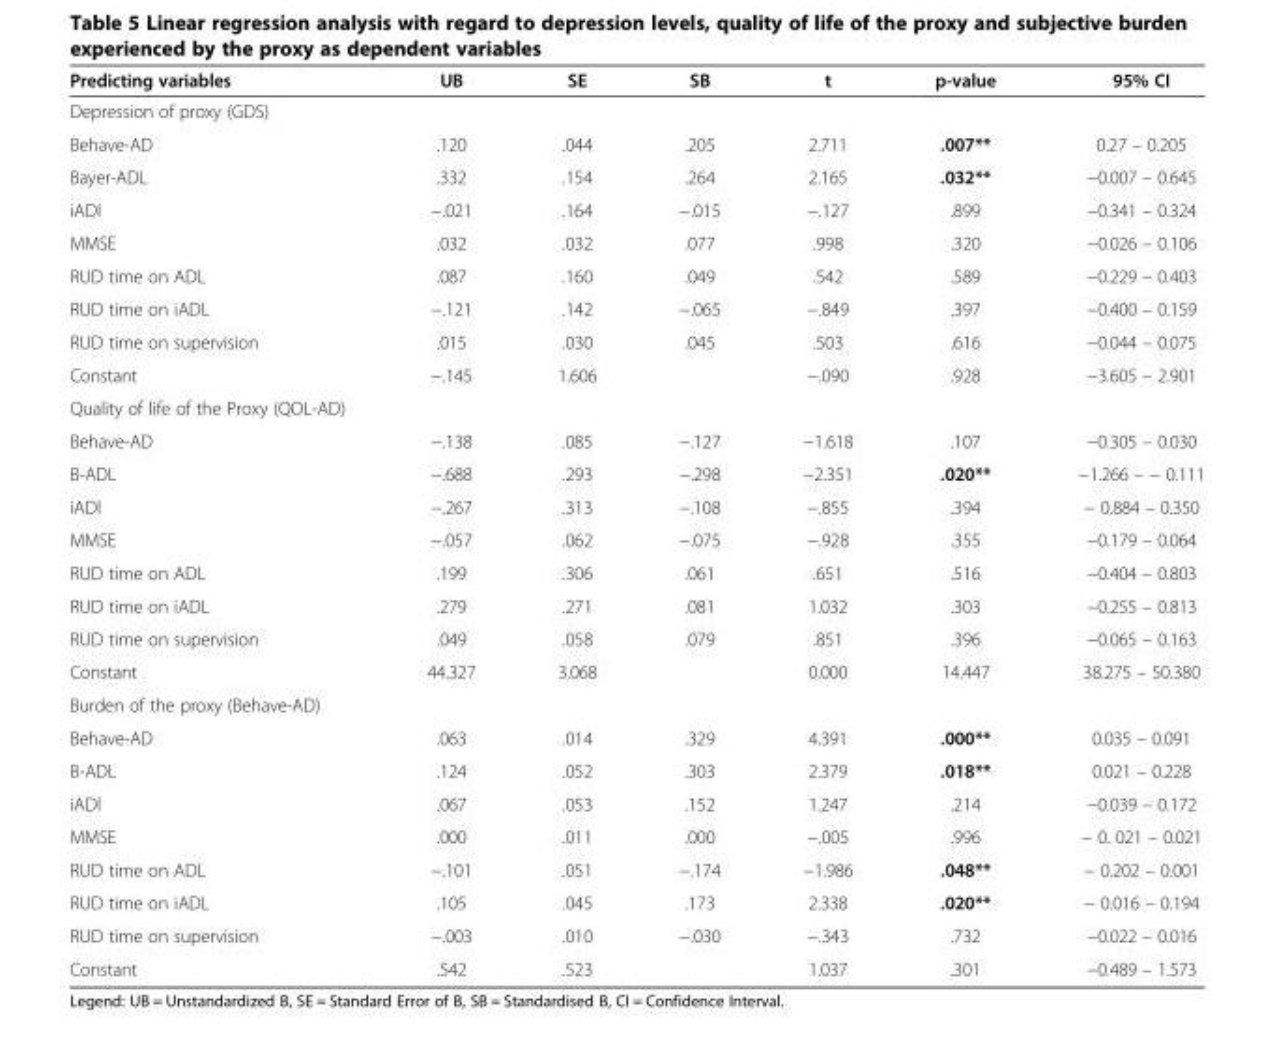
<table><thead><tr><td>Predicting variables</td><td>UB</td><td>SE</td><td>SB</td><td>t</td><td>p-value</td><td>95% CI</td></tr></thead><tbody><tr><td colspan="7">Depression of proxy (GDS)</td></tr><tr><td>Behave-AD</td><td>.120</td><td>.044</td><td>.205</td><td>2.711</td><td>.007**</td><td>0.27 – 0.205</td></tr><tr><td>Bayer-ADL</td><td>.332</td><td>.154</td><td>.264</td><td>2.165</td><td>.032**</td><td>−0.007 – 0.645</td></tr><tr><td>iADl</td><td>−.021</td><td>.164</td><td>−.015</td><td>−.127</td><td>.899</td><td>−0.341 – 0.324</td></tr><tr><td>MMSE</td><td>.032</td><td>.032</td><td>.077</td><td>.998</td><td>.320</td><td>−0.026 – 0.106</td></tr><tr><td>RUD time on ADL</td><td>.087</td><td>.160</td><td>.049</td><td>.542</td><td>.589</td><td>−0.229 – 0.403</td></tr><tr><td>RUD time on iADL</td><td>−.121</td><td>.142</td><td>−.065</td><td>−.849</td><td>.397</td><td>−0.400 – 0.159</td></tr><tr><td>RUD time on supervision</td><td>.015</td><td>.030</td><td>.045</td><td>.503</td><td>.616</td><td>−0.044 – 0.075</td></tr><tr><td>Constant</td><td>−.145</td><td>1.606</td><td></td><td>−.090</td><td>.928</td><td>−3.605 – 2.901</td></tr><tr><td colspan="7">Quality of life of the Proxy (QOL-AD)</td></tr><tr><td>Behave-AD</td><td>−.138</td><td>.085</td><td>−.127</td><td>−1.618</td><td>.107</td><td>−0.305 – 0.030</td></tr><tr><td>B-ADL</td><td>−.688</td><td>.293</td><td>−.298</td><td>−2.351</td><td>.020**</td><td>−1.266 – − 0.111</td></tr><tr><td>iADl</td><td>−.267</td><td>.313</td><td>−.108</td><td>−.855</td><td>.394</td><td>− 0.884 – 0.350</td></tr><tr><td>MMSE</td><td>−.057</td><td>.062</td><td>−.075</td><td>−.928</td><td>.355</td><td>−0.179 – 0.064</td></tr><tr><td>RUD time on ADL</td><td>.199</td><td>.306</td><td>.061</td><td>.651</td><td>.516</td><td>−0.404 – 0.803</td></tr><tr><td>RUD time on iADL</td><td>.279</td><td>.271</td><td>.081</td><td>1.032</td><td>.303</td><td>−0.255 – 0.813</td></tr><tr><td>RUD time on supervision</td><td>.049</td><td>.058</td><td>.079</td><td>.851</td><td>.396</td><td>−0.065 – 0.163</td></tr><tr><td>Constant</td><td>44.327</td><td>3.068</td><td></td><td>0.000</td><td>14.447</td><td>38.275 – 50.380</td></tr><tr><td colspan="7">Burden of the proxy (Behave-AD)</td></tr><tr><td>Behave-AD</td><td>.063</td><td>.014</td><td>.329</td><td>4.391</td><td>.000**</td><td>0.035 – 0.091</td></tr><tr><td>B-ADL</td><td>.124</td><td>.052</td><td>.303</td><td>2.379</td><td>.018**</td><td>0.021 – 0.228</td></tr><tr><td>iADl</td><td>.067</td><td>.053</td><td>.152</td><td>1.247</td><td>.214</td><td>−0.039 – 0.172</td></tr><tr><td>MMSE</td><td>.000</td><td>.011</td><td>.000</td><td>−.005</td><td>.996</td><td>− 0. 021 – 0.021</td></tr><tr><td>RUD time on ADL</td><td>−.101</td><td>.051</td><td>−.174</td><td>−1.986</td><td>.048**</td><td>− 0.202 – 0.001</td></tr><tr><td>RUD time on iADL</td><td>.105</td><td>.045</td><td>.173</td><td>2.338</td><td>.020**</td><td>− 0.016 – 0.194</td></tr><tr><td>RUD time on supervision</td><td>−.003</td><td>.010</td><td>−.030</td><td>−.343</td><td>.732</td><td>−0.022 – 0.016</td></tr><tr><td>Constant</td><td>.542</td><td>.523</td><td></td><td>1.037</td><td>.301</td><td>−0.489 – 1.573</td></tr></tbody></table>